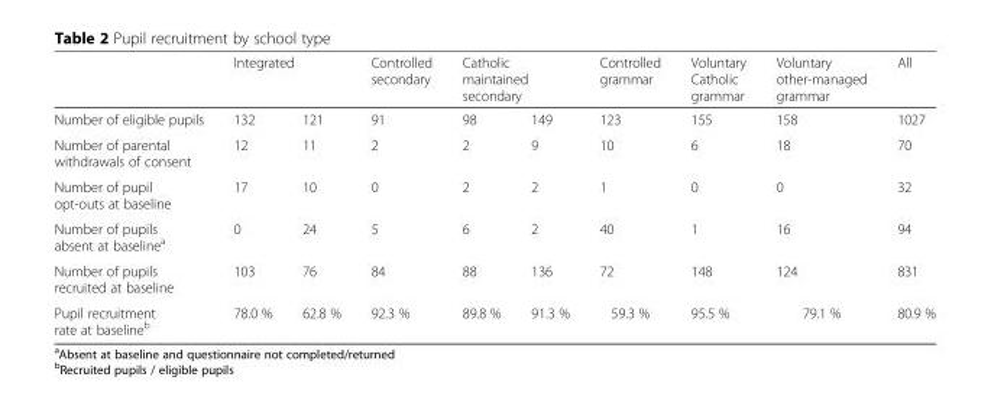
<table><thead><tr><td rowspan="2">Number of eligible pupils</td><td colspan="2">Integrated</td><td rowspan="2">Controlled secondary 91</td><td colspan="2">Catholic maintained secondary</td><td rowspan="2">Controlled grammar 123</td><td rowspan="2">Voluntary Catholic grammar 155</td><td rowspan="2">Voluntary other-managed grammar 158</td><td rowspan="2">All 1027</td></tr><tr><td>132</td><td>121</td><td>98</td><td>149</td></tr></thead><tbody><tr><td>Number of parental withdrawals of consent</td><td>12</td><td>11</td><td>2</td><td>2</td><td>9</td><td>10</td><td>6</td><td>18</td><td>70</td></tr><tr><td>Number of pupil opt-outs at baseline</td><td>17</td><td>10</td><td>0</td><td>2</td><td>2</td><td>1</td><td>0</td><td>0</td><td>32</td></tr><tr><td>Number of pupils absent at baseline<sup>a</sup></td><td>0</td><td>24</td><td>5</td><td>6</td><td>2</td><td>40</td><td>1</td><td>16</td><td>94</td></tr><tr><td>Number of pupils recruited at baseline</td><td>103</td><td>76</td><td>84</td><td>88</td><td>136</td><td>72</td><td>148</td><td>124</td><td>831</td></tr><tr><td>Pupil recruitment rate at baseline<sup>b</sup></td><td>78.0 %</td><td>62.8 %</td><td>92.3 %</td><td>89.8 %</td><td>91.3 %</td><td>59.3 %</td><td>95.5 %</td><td>79.1 %</td><td>80.9 %</td></tr></tbody></table>